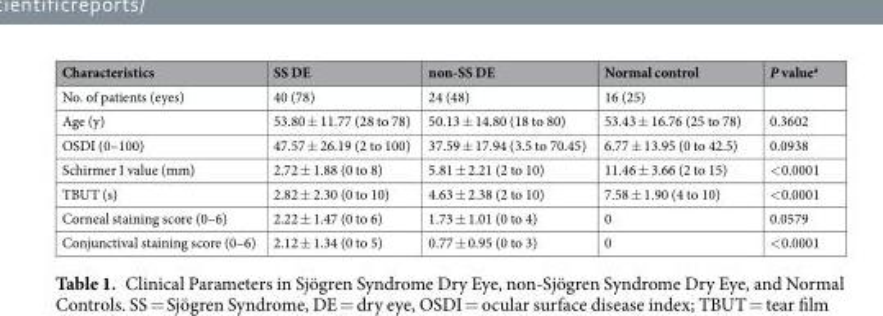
<table><thead><tr><td>Characteristics</td><td>SS DE</td><td>non-SS DE</td><td>Normal control</td><td>P value<sup>a</sup></td></tr></thead><tbody><tr><td>No. of patients (eyes)</td><td>40 (78)</td><td>24 (48)</td><td>16 (25)</td><td></td></tr><tr><td>Age (y)</td><td>53.80 ± 11.77 (28 to 78)</td><td>50.13 ± 14.80 (18 to 80)</td><td>53.43 ± 16.76 (25 to 78)</td><td>0.3602</td></tr><tr><td>OSDI (0–100)</td><td>47.57 ± 26.19 (2 to 100)</td><td>37.59 ± 17.94 (3.5 to 70.45)</td><td>6.77 ± 13.95 (0 to 42.5)</td><td>0.0938</td></tr><tr><td>Schirmer I value (mm)</td><td>2.72 ± 1.88 (0 to 8)</td><td>5.81 ± 2.21 (2 to 10)</td><td>11.46 ± 3.66 (2 to 15)</td><td>&lt;0.0001</td></tr><tr><td>TBUT (s)</td><td>2.82 ± 2.30 (0 to 10)</td><td>4.63 ± 2.38 (2 to 10)</td><td>7.58 ± 1.90 (4 to 10)</td><td>&lt;0.0001</td></tr><tr><td>Corneal staining score (0–6)</td><td>2.22 ± 1.47 (0 to 6)</td><td>1.73 ± 1.01 (0 to 4)</td><td>0</td><td>0.0579</td></tr><tr><td>Conjunctival staining score (0–6)</td><td>2.12 ± 1.34 (0 to 5)</td><td>0.77 ± 0.95 (0 to 3)</td><td>0</td><td>&lt;0.0001</td></tr></tbody></table>